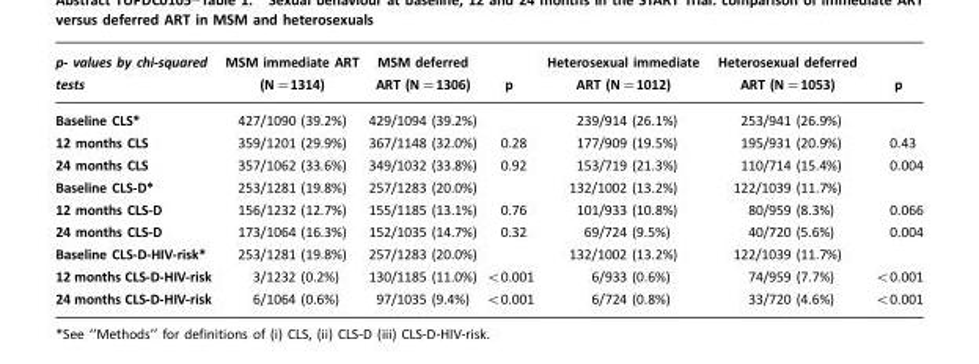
<table><thead><tr><td>p- values by chi-squared tests</td><td>MSM immediate ART (N=1314)</td><td>MSM deferred ART (N=1306)</td><td>p</td><td>Heterosexual immediate ART (N=1012)</td><td>Heterosexual deferred ART (N=1053)</td><td>p</td></tr></thead><tbody><tr><td>Baseline CLS*</td><td>427/1090 (39.2%)</td><td>429/1094 (39.2%)</td><td></td><td>239/914 (26.1%)</td><td>253/941 (26.9%)</td><td></td></tr><tr><td>12 months CLS</td><td>359/1201 (29.9%)</td><td>367/1148 (32.0%)</td><td>0.28</td><td>177/909 (19.5%)</td><td>195/931 (20.9%)</td><td>0.43</td></tr><tr><td>24 months CLS</td><td>357/1062 (33.6%)</td><td>349/1032 (33.8%)</td><td>0.92</td><td>153/719 (21.3%)</td><td>110/714 (15.4%)</td><td>0.004</td></tr><tr><td>Baseline CLS-D*</td><td>253/1281 (19.8%)</td><td>257/1283 (20.0%)</td><td></td><td>132/1002 (13.2%)</td><td>122/1039 (11.7%)</td><td></td></tr><tr><td>12 months CLS-D</td><td>156/1232 (12.7%)</td><td>155/1185 (13.1%)</td><td>0.76</td><td>101/933 (10.8%)</td><td>80/959 (8.3%)</td><td>0.066</td></tr><tr><td>24 months CLS-D</td><td>173/1064 (16.3%)</td><td>152/1035 (14.7%)</td><td>0.32</td><td>69/724 (9.5%)</td><td>40/720 (5.6%)</td><td>0.004</td></tr><tr><td>Baseline CLS-D-HIV-risk*</td><td>253/1281 (19.8%)</td><td>257/1283 (20.0%)</td><td></td><td>132/1002 (13.2%)</td><td>122/1039 (11.7%)</td><td></td></tr><tr><td>12 months CLS-D-HIV-risk</td><td>3/1232 (0.2%)</td><td>130/1185 (11.0%)</td><td>&lt;0.001</td><td>6/933 (0.6%)</td><td>74/959 (7.7%)</td><td>&lt;0.001</td></tr><tr><td>24 months CLS-D-HIV-risk</td><td>6/1064 (0.6%)</td><td>97/1035 (9.4%)</td><td>&lt;0.001</td><td>6/724 (0.8%)</td><td>33/720 (4.6%)</td><td>&lt;0.001</td></tr></tbody></table>